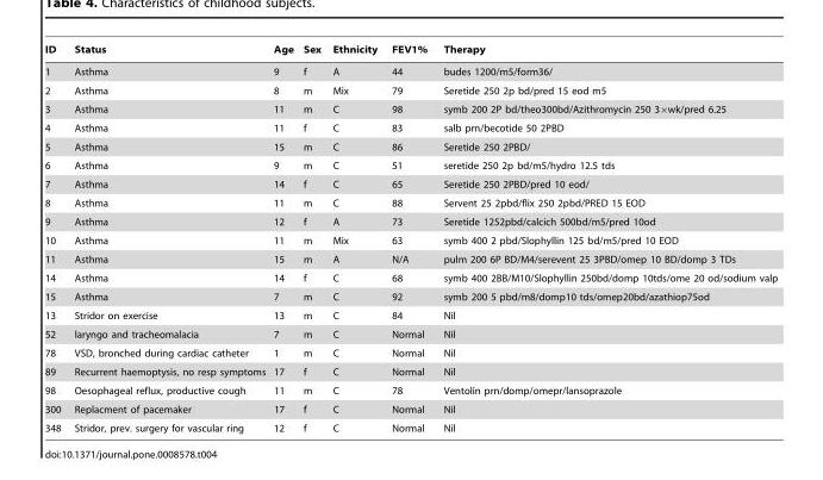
<table><thead><tr><td>ID</td><td>Status</td><td>Age</td><td>Sex</td><td>Ethnicity</td><td>FEV1%</td><td>Therapy</td></tr></thead><tbody><tr><td>1</td><td>Asthma</td><td>9</td><td>f</td><td>A</td><td>44</td><td>budes 1200/m5/form36/</td></tr><tr><td>2</td><td>Asthma</td><td>8</td><td>m</td><td>Mix</td><td>79</td><td>Seretide 250 2p bd/pred 15 eod m5</td></tr><tr><td>3</td><td>Asthma</td><td>11</td><td>m</td><td>C</td><td>98</td><td>symb 200 2P bd/theo300bd/Azithromycin 250 3×wk/pred 6.25</td></tr><tr><td>4</td><td>Asthma</td><td>11</td><td>f</td><td>C</td><td>83</td><td>salb prn/becotide 50 2PBD</td></tr><tr><td>5</td><td>Asthma</td><td>15</td><td>m</td><td>C</td><td>86</td><td>Seretide 250 2PBD/</td></tr><tr><td>6</td><td>Asthma</td><td>9</td><td>m</td><td>C</td><td>51</td><td>seretide 250 2p bd/m5/hydro 12.5 tds</td></tr><tr><td>7</td><td>Asthma</td><td>14</td><td>f</td><td>C</td><td>65</td><td>Seretide 250 2PBD/pred 10 eod/</td></tr><tr><td>8</td><td>Asthma</td><td>11</td><td>m</td><td>C</td><td>88</td><td>Servent 25 2pbd/flix 250 2pbd/PRED 15 EOD</td></tr><tr><td>9</td><td>Asthma</td><td>12</td><td>f</td><td>A</td><td>73</td><td>Seretide 1252pbd/calcich 500bd/m5/pred 10od</td></tr><tr><td>10</td><td>Asthma</td><td>11</td><td>m</td><td>Mix</td><td>63</td><td>symb 400 2 pbd/Slophyllin 125 bd/m5/pred 10 EOD</td></tr><tr><td>11</td><td>Asthma</td><td>15</td><td>m</td><td>A</td><td>N/A</td><td>pulm 200 6P BD/M4/serevent 25 3PBD/omep 10 BD/domp 3 TDs</td></tr><tr><td>14</td><td>Asthma</td><td>14</td><td>f</td><td>C</td><td>68</td><td>symb 400 2BB/M10/Slophyllin 250bd/domp 10tds/ome 20 od/sodium valp</td></tr><tr><td>15</td><td>Asthma</td><td>7</td><td>m</td><td>C</td><td>92</td><td>symb 200 5 pbd/m8/domp10 tds/omep20bd/azathiop75od</td></tr><tr><td>13</td><td>Stridor on exercise</td><td>13</td><td>m</td><td>C</td><td>84</td><td>Nil</td></tr><tr><td>52</td><td>laryngo and tracheomalacia</td><td>7</td><td>m</td><td>C</td><td>Normal</td><td>Nil</td></tr><tr><td>78</td><td>VSD, bronched during cardiac catheter</td><td>1</td><td>m</td><td>C</td><td>Normal</td><td>Nil</td></tr><tr><td>89</td><td>Recurrent haemoptysis, no resp symptoms</td><td>17</td><td>f</td><td>C</td><td>Normal</td><td>Nil</td></tr><tr><td>98</td><td>Oesophageal reflux, productive cough</td><td>11</td><td>m</td><td>C</td><td>78</td><td>Ventolin prn/domp/omepr/lansoprazole</td></tr><tr><td>300</td><td>Replacment of pacemaker</td><td>17</td><td>f</td><td>C</td><td>Normal</td><td>Nil</td></tr><tr><td>348</td><td>Stridor, prev. surgery for vascular ring</td><td>12</td><td>f</td><td>C</td><td>Normal</td><td>Nil</td></tr></tbody></table>